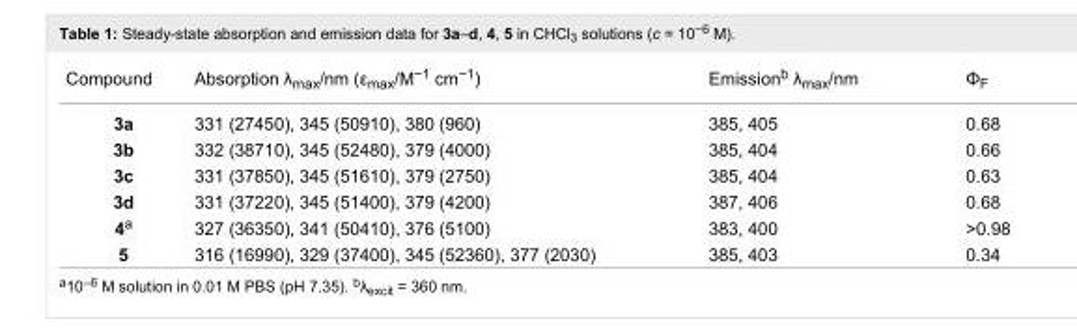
<table><tbody><tr><td>Compound</td><td>Absorption λ<sub>max</sub>/nm (ε<sub>max</sub>/M<sup>−1</sup> cm<sup>−1</sup>)</td><td>Emission<sup>b</sup> λ<sub>max</sub>/nm</td><td>Φ<sub>F</sub></td></tr><tr><td>3a</td><td>331 (27450), 345 (50910), 380 (960)</td><td>385, 405</td><td>0.68</td></tr><tr><td>3b</td><td>332 (38710), 345 (52480), 379 (4000)</td><td>385, 404</td><td>0.66</td></tr><tr><td>3c</td><td>331 (37850), 345 (51610), 379 (2750)</td><td>385, 404</td><td>0.63</td></tr><tr><td>3d</td><td>331 (37220), 345 (51400), 379 (4200)</td><td>387, 406</td><td>0.68</td></tr><tr><td>4<sup>a</sup></td><td>327 (36350), 341 (50410), 376 (5100)</td><td>383, 400</td><td>&gt;0.98</td></tr><tr><td>5</td><td>316 (16990), 329 (37400), 345 (52360), 377 (2030)</td><td>385, 403</td><td>0.34</td></tr></tbody></table>